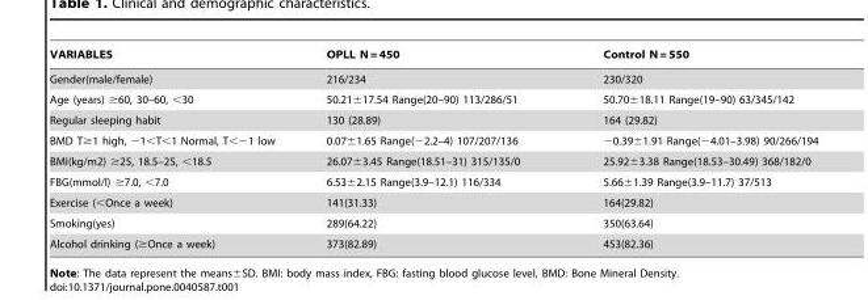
<table><thead><tr><td>VARIABLES</td><td>OPLL N = 450</td><td>Control N = 550</td></tr></thead><tbody><tr><td>Gender(male/female)</td><td>216/234</td><td>230/320</td></tr><tr><td>Age (years) ≥60, 30–60, &lt;30</td><td>50.21±17.54 Range(20–90) 113/286/51</td><td>50.70±18.11 Range(19–90) 63/345/142</td></tr><tr><td>Regular sleeping habit</td><td>130 (28.89)</td><td>164 (29.82)</td></tr><tr><td>BMD T≥1 high, −1&lt;T&lt;1 Normal, T&lt;−1 low</td><td>0.07±1.65 Range(−2.2–4) 107/207/136</td><td>−0.39±1.91 Range(−4.01–3.98) 90/266/194</td></tr><tr><td>BMI(kg/m2) ≥25, 18.5–25, &lt;18.5</td><td>26.07±3.45 Range(18.51–31) 315/135/0</td><td>25.92±3.38 Range(18.53–30.49) 368/182/0</td></tr><tr><td>FBG(mmol/l) ≥7.0, &lt;7.0</td><td>6.53±2.15 Range(3.9–12.1) 116/334</td><td>5.66±1.39 Range(3.9–11.7) 37/513</td></tr><tr><td>Exercise (&lt;Once a week)</td><td>141(31.33)</td><td>164(29.82)</td></tr><tr><td>Smoking(yes)</td><td>289(64.22)</td><td>350(63.64)</td></tr><tr><td>Alcohol drinking (≥Once a week)</td><td>373(82.89)</td><td>453(82.36)</td></tr></tbody></table>